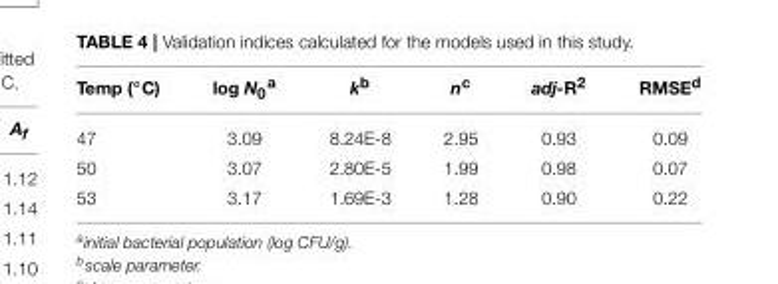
<table><thead><tr><td>Temp (◦C)</td><td>log N<sub>0</sub><sup>a</sup></td><td>k<sup>b</sup></td><td>n<sup>c</sup></td><td>adj-R<sup>2</sup></td><td>RMSE<sup>d</sup></td></tr></thead><tbody><tr><td>47</td><td>3.09</td><td>8.24E-8</td><td>2.95</td><td>0.93</td><td>0.09</td></tr><tr><td>50</td><td>3.07</td><td>2.80E-5</td><td>1.99</td><td>0.98</td><td>0.07</td></tr><tr><td>53</td><td>3.17</td><td>1.69E-3</td><td>1.28</td><td>0.90</td><td>0.22</td></tr></tbody></table>